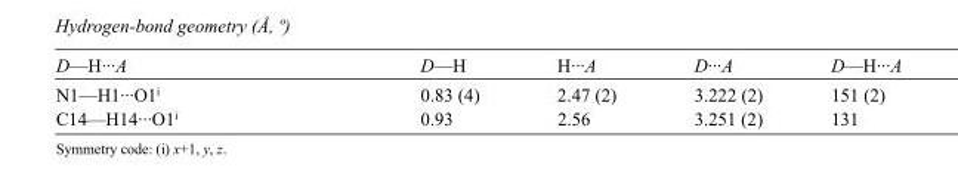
<table><tbody><tr><td>D—H···A</td><td>D—H</td><td>H···A</td><td>D···A</td><td>D—H···A</td></tr><tr><td>N1—H1···O1<sup>i</sup></td><td>0.83 (4)</td><td>2.47 (2)</td><td>3.222 (2)</td><td>151 (2)</td></tr><tr><td>C14—H14···O1<sup>i</sup></td><td>0.93</td><td>2.56</td><td>3.251 (2)</td><td>131</td></tr></tbody></table>